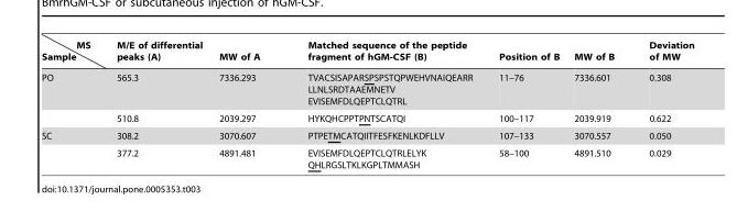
<table><thead><tr><td>MS Sample</td><td>M/E of differential peaks (A)</td><td>MW of A</td><td>Matched sequence of the peptide fragment of hGM-CSF (B)</td><td>Position of B</td><td>MW of B</td><td>Deviation of MW</td></tr></thead><tbody><tr><td rowspan="2">PO</td><td>565.3</td><td>7336.293</td><td>TVACSISAPARSPSPSTQPWEHVNAIQEARR LLNLSRDTAAEMNETV EVISEMFDLQEPTCLQTRL</td><td>11–76</td><td>7336.601</td><td>0.308</td></tr><tr><td>510.8</td><td>2039.297</td><td>HYKQHCPPTPNTSCATQI</td><td>100–117</td><td>2039.919</td><td>0.622</td></tr><tr><td rowspan="2">SC</td><td>308.2</td><td>3070.607</td><td>PTPETMCATQIITFESFKENLKDFLLV</td><td>107–133</td><td>3070.557</td><td>0.050</td></tr><tr><td>377.2</td><td>4891.481</td><td>EVISEMFDLQEPTCLQTRLELYK QHLRGSLTKLKGPLTMMASH</td><td>58–100</td><td>4891.510</td><td>0.029</td></tr></tbody></table>